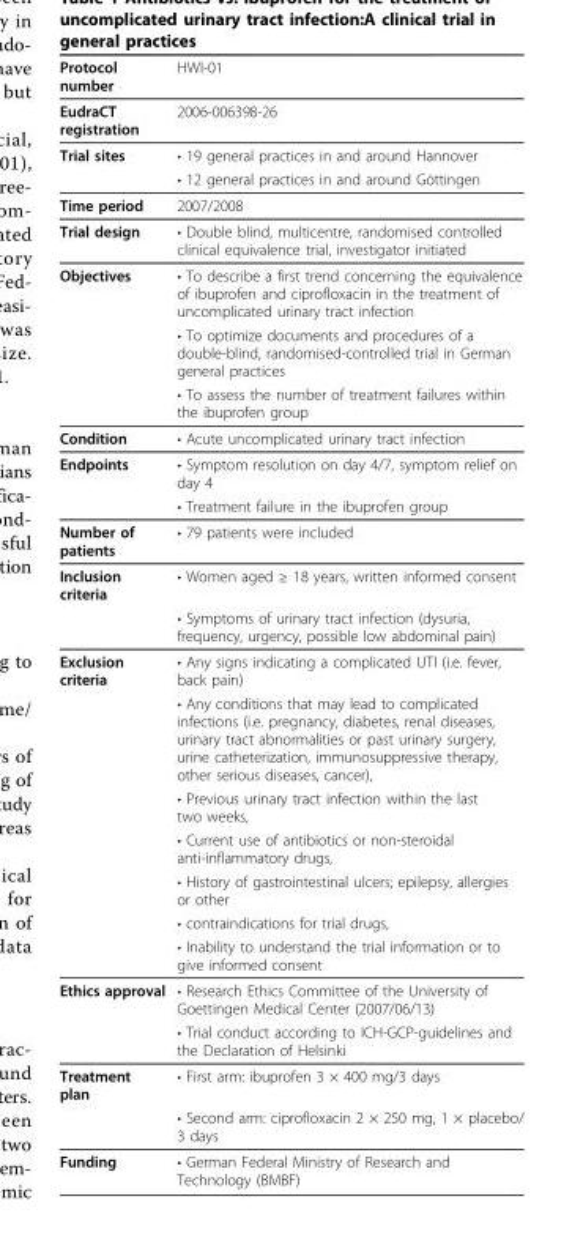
<table><thead><tr><td>Protocol number</td><td>HWI-01</td></tr></thead><tbody><tr><td>EudraCT registration</td><td>2006-006398-26</td></tr><tr><td rowspan="2">Trial sites</td><td>• 19 general practices in and around Hannover</td></tr><tr><td>• 12 general practices in and around Göttingen</td></tr><tr><td>Time period</td><td>2007/2008</td></tr><tr><td>Trial design</td><td>• Double blind, multicentre, randomised controlled clinical equivalence trial, investigator initiated</td></tr><tr><td rowspan="3">Objectives</td><td>• To describe a first trend concerning the equivalence of ibuprofen and ciprofloxacin in the treatment of uncomplicated urinary tract infection</td></tr><tr><td>• To optimize documents and procedures of a double-blind, randomised-controlled trial in German general practices</td></tr><tr><td>• To assess the number of treatment failures within the ibuprofen group</td></tr><tr><td>Condition</td><td>• Acute uncomplicated urinary tract infection</td></tr><tr><td rowspan="2">Endpoints</td><td>• Symptom resolution on day 4/7, symptom relief on day 4</td></tr><tr><td>• Treatment failure in the ibuprofen group</td></tr><tr><td>Number of patients</td><td>• 79 patients were included</td></tr><tr><td rowspan="2">Inclusion criteria</td><td>• Women aged ≥ 18 years, written informed consent</td></tr><tr><td>• Symptoms of urinary tract infection (dysuria, frequency, urgency, possible low abdominal pain)</td></tr><tr><td rowspan="7">Exclusion criteria</td><td>• Any signs indicating a complicated UTI (i.e. fever, back pain)</td></tr><tr><td>• Any conditions that may lead to complicated infections (i.e. pregnancy, diabetes, renal diseases, urinary tract abnormalities or past urinary surgery, urine catheterization, immunosuppressive therapy, other serious diseases, cancer),</td></tr><tr><td>• Previous urinary tract infection within the last two weeks,</td></tr><tr><td>• Current use of antibiotics or non-steroidal anti-inflammatory drugs,</td></tr><tr><td>• History of gastrointestinal ulcers; epilepsy, allergies or other</td></tr><tr><td>• contraindications for trial drugs,</td></tr><tr><td>• Inability to understand the trial information or to give informed consent</td></tr><tr><td rowspan="2">Ethics approval</td><td>• Research Ethics Committee of the University of Goettingen Medical Center (2007/06/13)</td></tr><tr><td>• Trial conduct according to ICH-GCP-guidelines and the Declaration of Helsinki</td></tr><tr><td rowspan="2">Treatment plan</td><td>• First arm: ibuprofen 3 × 400 mg/3 days</td></tr><tr><td>• Second arm: ciprofloxacin 2 × 250 mg, 1 × placebo/ 3 days</td></tr><tr><td>Funding</td><td>• German Federal Ministry of Research and Technology (BMBF)</td></tr></tbody></table>